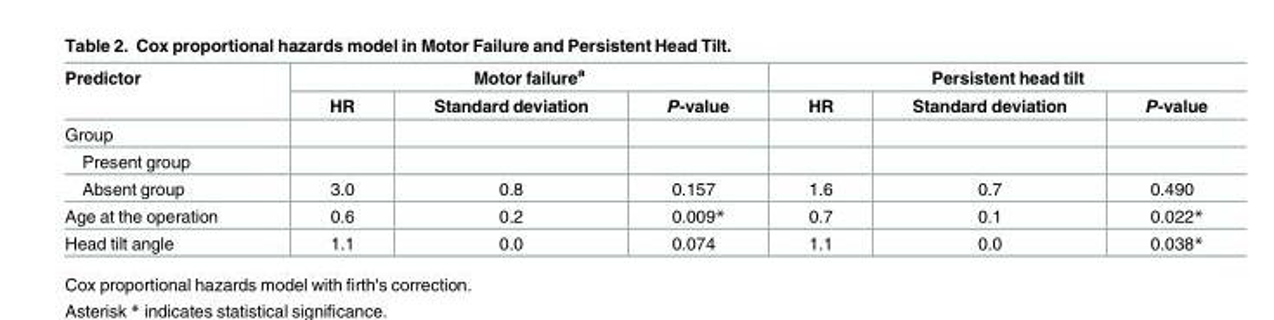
<table><thead><tr><td rowspan="2">Predictor</td><td colspan="3">Motor failure<sup>a</sup></td><td colspan="3">Persistent head tilt</td></tr><tr><td>HR</td><td>Standard deviation</td><td>P-value</td><td>HR</td><td>Standard deviation</td><td>P-value</td></tr></thead><tbody><tr><td colspan="7">Group</td></tr><tr><td colspan="7">Present group</td></tr><tr><td>Absent group</td><td>3.0</td><td>0.8</td><td>0.157</td><td>1.6</td><td>0.7</td><td>0.490</td></tr><tr><td>Age at the operation</td><td>0.6</td><td>0.2</td><td>0.009*</td><td>0.7</td><td>0.1</td><td>0.022*</td></tr><tr><td>Head tilt angle</td><td>1.1</td><td>0.0</td><td>0.074</td><td>1.1</td><td>0.0</td><td>0.038*</td></tr></tbody></table>